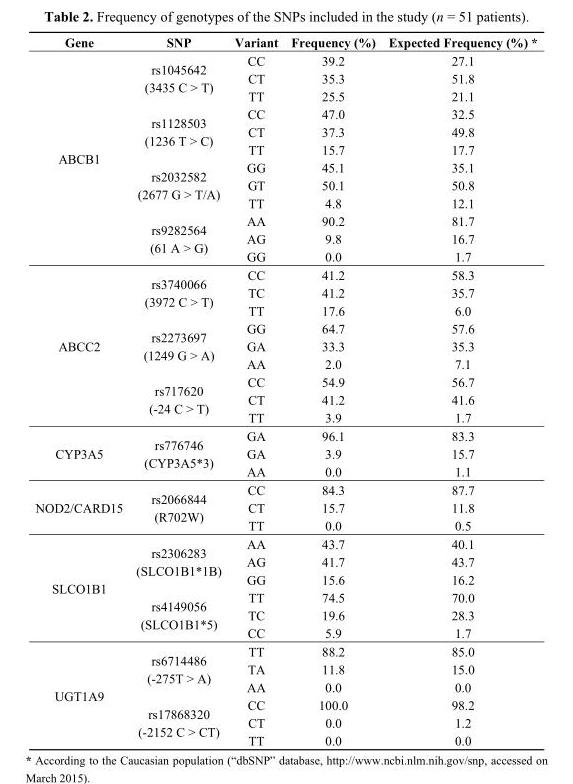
<table><thead><tr><td>Gene</td><td>SNP</td><td>Variant</td><td>Frequency (%)</td><td>Expected Frequency (%) *</td></tr></thead><tbody><tr><td rowspan="12">ABCB1</td><td rowspan="3">rs1045642 (3435 C &gt; T)</td><td>CC</td><td>39.2</td><td>27.1</td></tr><tr><td>CT</td><td>35.3</td><td>51.8</td></tr><tr><td>TT</td><td>25.5</td><td>21.1</td></tr><tr><td rowspan="3">rs1128503 (1236 T &gt; C)</td><td>CC</td><td>47.0</td><td>32.5</td></tr><tr><td>CT</td><td>37.3</td><td>49.8</td></tr><tr><td>TT</td><td>15.7</td><td>17.7</td></tr><tr><td rowspan="3">rs2032582 (2677 G &gt; T/A)</td><td>GG</td><td>45.1</td><td>35.1</td></tr><tr><td>GT</td><td>50.1</td><td>50.8</td></tr><tr><td>TT</td><td>4.8</td><td>12.1</td></tr><tr><td rowspan="3">rs9282564 (61 A &gt; G)</td><td>AA</td><td>90.2</td><td>81.7</td></tr><tr><td>AG</td><td>9.8</td><td>16.7</td></tr><tr><td>GG</td><td>0.0</td><td>1.7</td></tr><tr><td rowspan="9">ABCC2</td><td rowspan="3">rs3740066 (3972 C &gt; T)</td><td>CC</td><td>41.2</td><td>58.3</td></tr><tr><td>TC</td><td>41.2</td><td>35.7</td></tr><tr><td>TT</td><td>17.6</td><td>6.0</td></tr><tr><td rowspan="3">rs2273697 (1249 G &gt; A)</td><td>GG</td><td>64.7</td><td>57.6</td></tr><tr><td>GA</td><td>33.3</td><td>35.3</td></tr><tr><td>AA</td><td>2.0</td><td>7.1</td></tr><tr><td rowspan="3">rs717620 (-24 C &gt; T)</td><td>CC</td><td>54.9</td><td>56.7</td></tr><tr><td>CT</td><td>41.2</td><td>41.6</td></tr><tr><td>TT</td><td>3.9</td><td>1.7</td></tr><tr><td rowspan="3">CYP3A5</td><td rowspan="3">rs776746 (CYP3A5*3)</td><td>GA</td><td>96.1</td><td>83.3</td></tr><tr><td>GA</td><td>3.9</td><td>15.7</td></tr><tr><td>AA</td><td>0.0</td><td>1.1</td></tr><tr><td rowspan="3">NOD2/CARD15</td><td rowspan="3">rs2066844 (R702W)</td><td>CC</td><td>84.3</td><td>87.7</td></tr><tr><td>CT</td><td>15.7</td><td>11.8</td></tr><tr><td>TT</td><td>0.0</td><td>0.5</td></tr><tr><td rowspan="6">SLCO1B1</td><td rowspan="3">rs2306283 (SLCO1B1*1B)</td><td>AA</td><td>43.7</td><td>40.1</td></tr><tr><td>AG</td><td>41.7</td><td>43.7</td></tr><tr><td>GG</td><td>15.6</td><td>16.2</td></tr><tr><td rowspan="3">rs4149056 (SLCO1B1*5)</td><td>TT</td><td>74.5</td><td>70.0</td></tr><tr><td>TC</td><td>19.6</td><td>28.3</td></tr><tr><td>CC</td><td>5.9</td><td>1.7</td></tr><tr><td rowspan="6">UGT1A9</td><td rowspan="3">rs6714486 (-275T &gt; A)</td><td>TT</td><td>88.2</td><td>85.0</td></tr><tr><td>TA</td><td>11.8</td><td>15.0</td></tr><tr><td>AA</td><td>0.0</td><td>0.0</td></tr><tr><td rowspan="3">rs17868320 (-2152 C &gt; CT)</td><td>CC</td><td>100.0</td><td>98.2</td></tr><tr><td>CT</td><td>0.0</td><td>1.2</td></tr><tr><td>TT</td><td>0.0</td><td>0.0</td></tr></tbody></table>